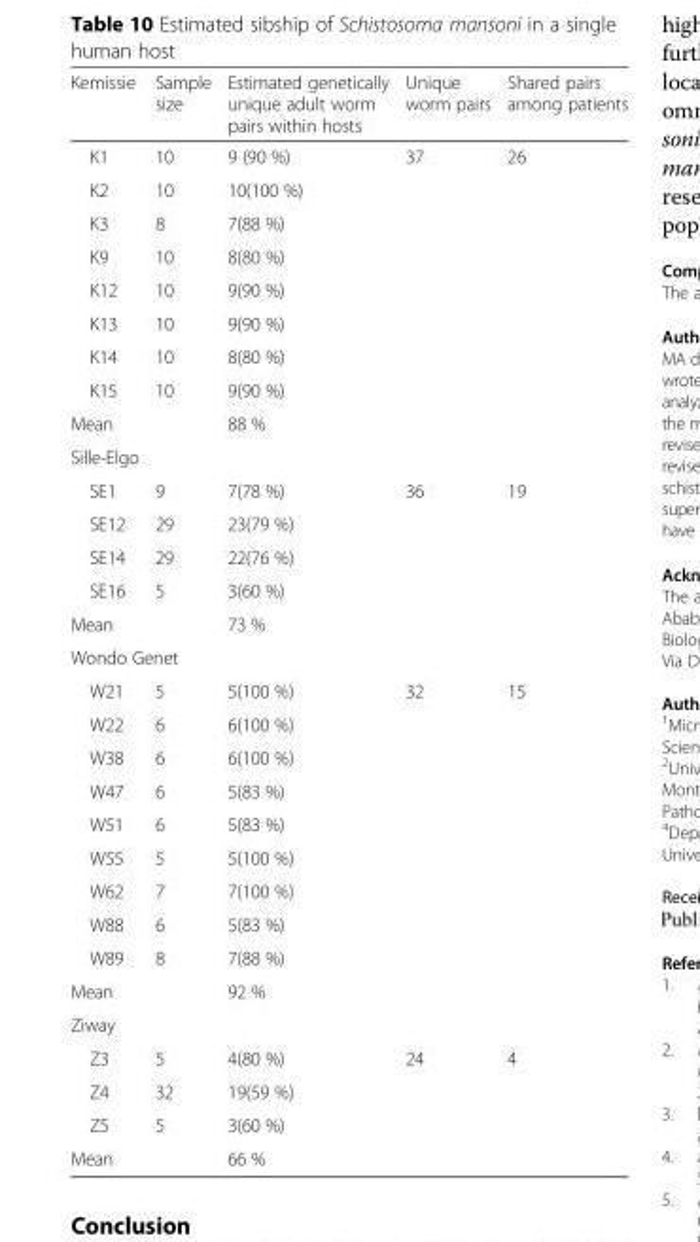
<table><thead><tr><td>Kemissie</td><td>Sample size</td><td>Estimated genetically unique adult worm pairs within hosts</td><td>Unique worm pairs</td><td>Shared pairs among patients</td></tr></thead><tbody><tr><td>K1</td><td>10</td><td>9 (90 %)</td><td rowspan="8">37</td><td rowspan="8">26</td></tr><tr><td>K2</td><td>10</td><td>10(100 %)</td></tr><tr><td>K3</td><td>8</td><td>7(88 %)</td></tr><tr><td>K9</td><td>10</td><td>8(80 %)</td></tr><tr><td>K12</td><td>10</td><td>9(90 %)</td></tr><tr><td>K13</td><td>10</td><td>9(90 %)</td></tr><tr><td>K14</td><td>10</td><td>8(80 %)</td></tr><tr><td>K15</td><td>10</td><td>9(90 %)</td></tr><tr><td>Mean</td><td></td><td>88 %</td><td></td><td></td></tr><tr><td colspan="5">Sille-Elgo</td></tr><tr><td>SE1</td><td>9</td><td>7(78 %)</td><td rowspan="4">36</td><td rowspan="4">19</td></tr><tr><td>SE12</td><td>29</td><td>23(79 %)</td></tr><tr><td>SE14</td><td>29</td><td>22(76 %)</td></tr><tr><td>SE16</td><td>5</td><td>3(60 %)</td></tr><tr><td>Mean</td><td></td><td>73 %</td><td></td><td></td></tr><tr><td colspan="5">Wondo Genet</td></tr><tr><td>W21</td><td>5</td><td>5(100 %)</td><td rowspan="9">32</td><td rowspan="9">15</td></tr><tr><td>W22</td><td>6</td><td>6(100 %)</td></tr><tr><td>W38</td><td>6</td><td>6(100 %)</td></tr><tr><td>W47</td><td>6</td><td>5(83 %)</td></tr><tr><td>W51</td><td>6</td><td>5(83 %)</td></tr><tr><td>W55</td><td>5</td><td>5(100 %)</td></tr><tr><td>W62</td><td>7</td><td>7(100 %)</td></tr><tr><td>W88</td><td>6</td><td>5(83 %)</td></tr><tr><td>W89</td><td>8</td><td>7(88 %)</td></tr><tr><td>Mean</td><td></td><td>92 %</td><td></td><td></td></tr><tr><td colspan="5">Ziway</td></tr><tr><td>Z3</td><td>5</td><td>4(80 %)</td><td rowspan="3">24</td><td rowspan="3">4</td></tr><tr><td>Z4</td><td>32</td><td>19(59 %)</td></tr><tr><td>Z5</td><td>5</td><td>3(60 %)</td></tr><tr><td>Mean</td><td></td><td>66 %</td><td></td><td></td></tr></tbody></table>